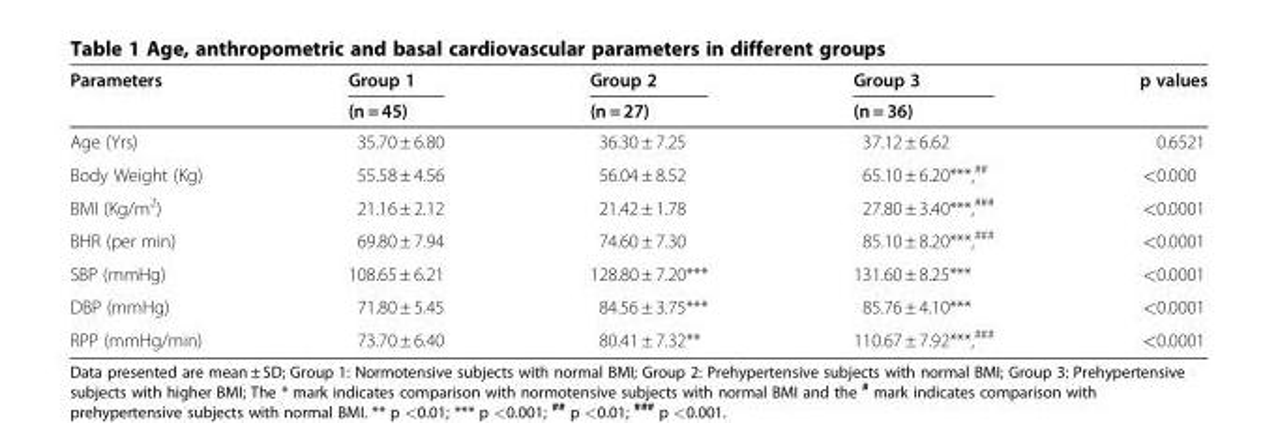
<table><thead><tr><td rowspan="2">Parameters</td><td rowspan="2">Group 1 (n = 45)</td><td rowspan="2">Group 2 (n = 27)</td><td rowspan="2">Group 3 (n = 36)</td><td rowspan="2">p values</td></tr><tr></tr></thead><tbody><tr><td>Age (Yrs)</td><td>35.70 ± 6.80</td><td>36.30 ± 7.25</td><td>37.12 ± 6.62</td><td>0.6521</td></tr><tr><td>Body Weight (Kg)</td><td>55.58 ± 4.56</td><td>56.04 ± 8.52</td><td>65.10 ± 6.20***,<sup>##</sup></td><td>&lt;0.000</td></tr><tr><td>BMI (Kg/m<sup>2</sup>)</td><td>21.16 ± 2.12</td><td>21.42 ± 1.78</td><td>27.80 ± 3.40***,<sup>###</sup></td><td>&lt;0.0001</td></tr><tr><td>BHR (per min)</td><td>69.80 ± 7.94</td><td>74.60 ± 7.30</td><td>85.10 ± 8.20***,<sup>###</sup></td><td>&lt;0.0001</td></tr><tr><td>SBP (mmHg)</td><td>108.65 ± 6.21</td><td>128.80 ± 7.20***</td><td>131.60 ± 8.25***</td><td>&lt;0.0001</td></tr><tr><td>DBP (mmHg)</td><td>71.80 ± 5.45</td><td>84.56 ± 3.75***</td><td>85.76 ± 4.10***</td><td>&lt;0.0001</td></tr><tr><td>RPP (mmHg/min)</td><td>73.70 ± 6.40</td><td>80.41 ± 7.32**</td><td>110.67 ± 7.92***,<sup>###</sup></td><td>&lt;0.0001</td></tr></tbody></table>